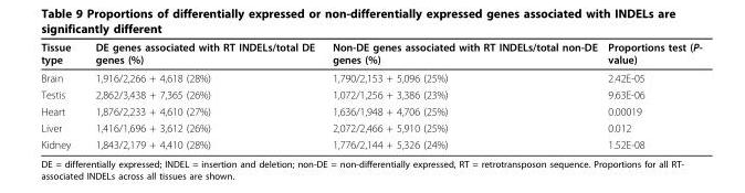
<table><thead><tr><td>Tissue type</td><td>DE genes associated with RT INDELs/total DE genes (%)</td><td>Non-DE genes associated with RT INDELs/total non-DE genes (%)</td><td>Proportions test (P- value)</td></tr></thead><tbody><tr><td>Brain</td><td>1,916/2,266 + 4,618 (28%)</td><td>1,790/2,153 + 5,096 (25%)</td><td>2.42E-05</td></tr><tr><td>Testis</td><td>2,862/3,438 + 7,365 (26%)</td><td>1,072/1,256 + 3,386 (23%)</td><td>9.63E-06</td></tr><tr><td>Heart</td><td>1,876/2,233 + 4,610 (27%)</td><td>1,636/1,948 + 4,706 (25%)</td><td>0.00019</td></tr><tr><td>Liver</td><td>1,416/1,696 + 3,612 (26%)</td><td>2,072/2,466 + 5,910 (25%)</td><td>0.012</td></tr><tr><td>Kidney</td><td>1,843/2,179 + 4,410 (28%)</td><td>1,776/2,144 + 5,326 (24%)</td><td>1.52E-08</td></tr></tbody></table>